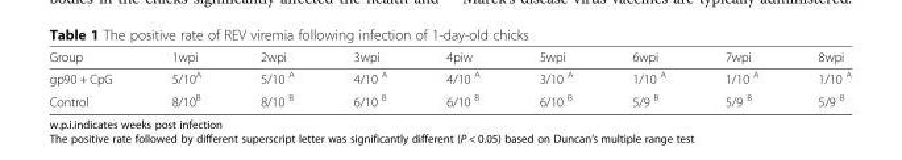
<table><thead><tr><td>Group</td><td>1wpi</td><td>2wpi</td><td>3wpi</td><td>4piw</td><td>5wpi</td><td>6wpi</td><td>7wpi</td><td>8wpi</td></tr></thead><tbody><tr><td>gp90 + CpG</td><td>5/10<sup>A</sup></td><td>5/10 <sup>A</sup></td><td>4/10 <sup>A</sup></td><td>4/10 <sup>A</sup></td><td>3/10 <sup>A</sup></td><td>1/10 <sup>A</sup></td><td>1/10 <sup>A</sup></td><td>1/10 <sup>A</sup></td></tr><tr><td>Control</td><td>8/10<sup>B</sup></td><td>8/10 <sup>B</sup></td><td>6/10 <sup>B</sup></td><td>6/10 <sup>B</sup></td><td>6/10 <sup>B</sup></td><td>5/9 <sup>B</sup></td><td>5/9 <sup>B</sup></td><td>5/9 <sup>B</sup></td></tr></tbody></table>